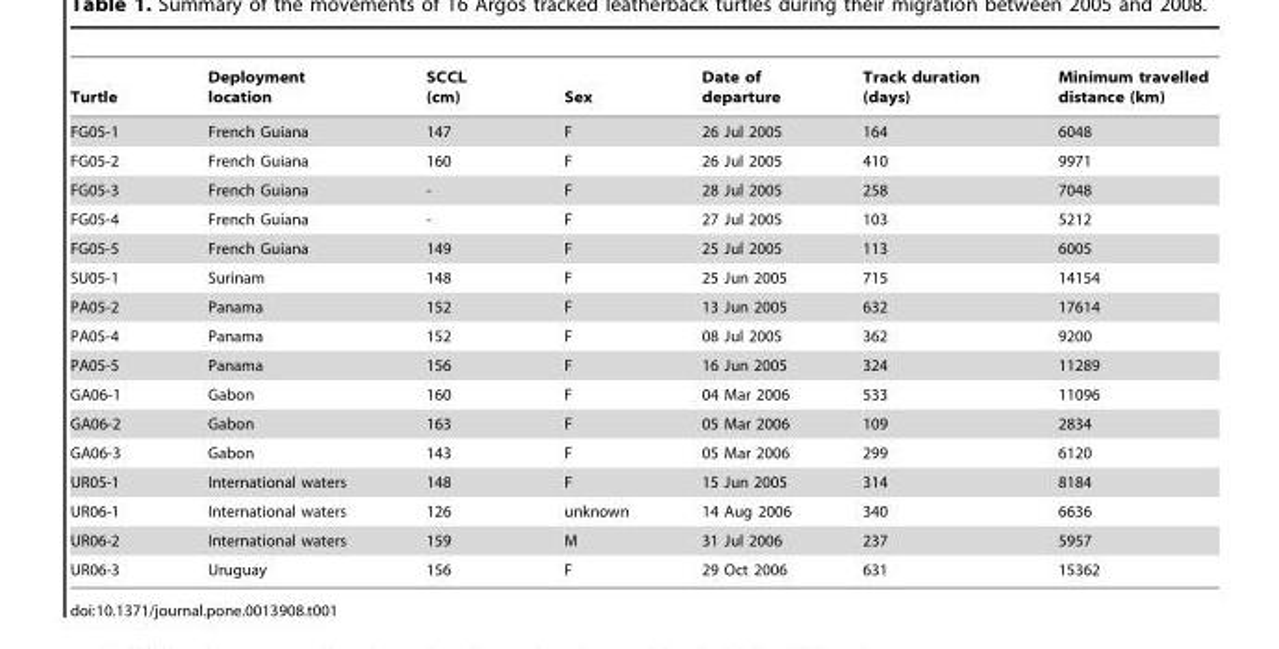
<table><thead><tr><td>Turtle</td><td>Deployment location</td><td>SCCL (cm)</td><td>Sex</td><td>Date of departure</td><td>Track duration (days)</td><td>Minimum travelled distance (km)</td></tr></thead><tbody><tr><td>FG05-1</td><td>French Guiana</td><td>147</td><td>F</td><td>26 Jul 2005</td><td>164</td><td>6048</td></tr><tr><td>FG05-2</td><td>French Guiana</td><td>160</td><td>F</td><td>26 Jul 2005</td><td>410</td><td>9971</td></tr><tr><td>FG05-3</td><td>French Guiana</td><td>-</td><td>F</td><td>28 Jul 2005</td><td>258</td><td>7048</td></tr><tr><td>FG05-4</td><td>French Guiana</td><td>-</td><td>F</td><td>27 Jul 2005</td><td>103</td><td>5212</td></tr><tr><td>FG05-5</td><td>French Guiana</td><td>149</td><td>F</td><td>25 Jul 2005</td><td>113</td><td>6005</td></tr><tr><td>SU05-1</td><td>Surinam</td><td>148</td><td>F</td><td>25 Jun 2005</td><td>715</td><td>14154</td></tr><tr><td>PA05-2</td><td>Panama</td><td>152</td><td>F</td><td>13 Jun 2005</td><td>632</td><td>17614</td></tr><tr><td>PA05-4</td><td>Panama</td><td>152</td><td>F</td><td>08 Jul 2005</td><td>362</td><td>9200</td></tr><tr><td>PA05-5</td><td>Panama</td><td>156</td><td>F</td><td>16 Jun 2005</td><td>324</td><td>11289</td></tr><tr><td>GA06-1</td><td>Gabon</td><td>160</td><td>F</td><td>04 Mar 2006</td><td>533</td><td>11096</td></tr><tr><td>GA06-2</td><td>Gabon</td><td>163</td><td>F</td><td>05 Mar 2006</td><td>109</td><td>2834</td></tr><tr><td>GA06-3</td><td>Gabon</td><td>143</td><td>F</td><td>05 Mar 2006</td><td>299</td><td>6120</td></tr><tr><td>UR05-1</td><td>International waters</td><td>148</td><td>F</td><td>15 Jun 2005</td><td>314</td><td>8184</td></tr><tr><td>UR06-1</td><td>International waters</td><td>126</td><td>unknown</td><td>14 Aug 2006</td><td>340</td><td>6636</td></tr><tr><td>UR06-2</td><td>International waters</td><td>159</td><td>M</td><td>31 Jul 2006</td><td>237</td><td>5957</td></tr><tr><td>UR06-3</td><td>Uruguay</td><td>156</td><td>F</td><td>29 Oct 2006</td><td>631</td><td>15362</td></tr></tbody></table>